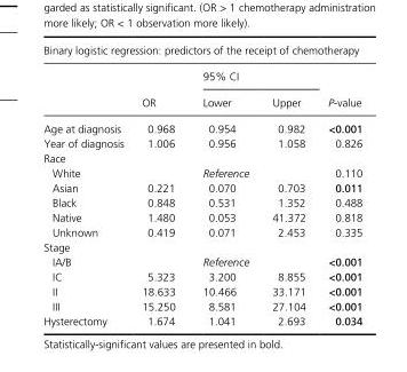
<table><thead><tr><td colspan="5">Binary logistic regression: predictors of the receipt of chemotherapy</td></tr><tr><td rowspan="2"></td><td rowspan="2">OR</td><td colspan="2">95% CI</td><td rowspan="2">P- value</td></tr><tr><td>Lower</td><td>Upper</td></tr></thead><tbody><tr><td>Age at diagnosis</td><td>0.968</td><td>0.954</td><td>0.982</td><td>&lt;0.001</td></tr><tr><td>Year of diagnosis</td><td>1.006</td><td>0.956</td><td>1.058</td><td>0.826</td></tr><tr><td colspan="5">Race</td></tr><tr><td>White</td><td></td><td>Reference</td><td></td><td>0.110</td></tr><tr><td>Asian</td><td>0.221</td><td>0.070</td><td>0.703</td><td>0.011</td></tr><tr><td>Black</td><td>0.848</td><td>0.531</td><td>1.352</td><td>0.488</td></tr><tr><td>Native</td><td>1.480</td><td>0.053</td><td>41.372</td><td>0.818</td></tr><tr><td>Unknown</td><td>0.419</td><td>0.071</td><td>2.453</td><td>0.335</td></tr><tr><td colspan="5">Stage</td></tr><tr><td>IA/B</td><td></td><td>Reference</td><td></td><td>&lt;0.001</td></tr><tr><td>IC</td><td>5.323</td><td>3.200</td><td>8.855</td><td>&lt;0.001</td></tr><tr><td>II</td><td>18.633</td><td>10.466</td><td>33.171</td><td>&lt;0.001</td></tr><tr><td>III</td><td>15.250</td><td>8.581</td><td>27.104</td><td>&lt;0.001</td></tr><tr><td>Hysterectomy</td><td>1.674</td><td>1.041</td><td>2.693</td><td>0.034</td></tr></tbody></table>